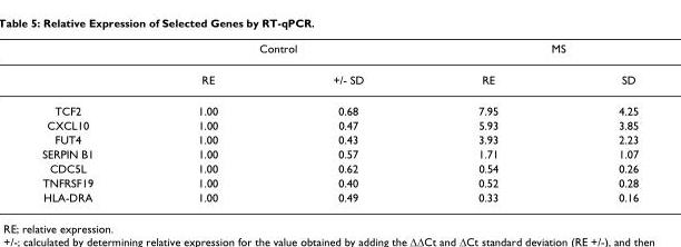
<table><thead><tr><td rowspan="2"></td><td colspan="2">Control</td><td colspan="2">MS</td></tr><tr><td>RE</td><td>+/- SD</td><td>RE</td><td>SD</td></tr></thead><tbody><tr><td>TCF2</td><td>1.00</td><td>0.68</td><td>7.95</td><td>4.25</td></tr><tr><td>CXCL10</td><td>1.00</td><td>0.47</td><td>5.93</td><td>3.85</td></tr><tr><td>FUT4</td><td>1.00</td><td>0.43</td><td>3.93</td><td>2.23</td></tr><tr><td>SERPIN B1</td><td>1.00</td><td>0.57</td><td>1.71</td><td>1.07</td></tr><tr><td>CDC5L</td><td>1.00</td><td>0.62</td><td>0.54</td><td>0.26</td></tr><tr><td>TNFRSF19</td><td>1.00</td><td>0.40</td><td>0.52</td><td>0.28</td></tr><tr><td>HLA-DRA</td><td>1.00</td><td>0.49</td><td>0.33</td><td>0.16</td></tr></tbody></table>